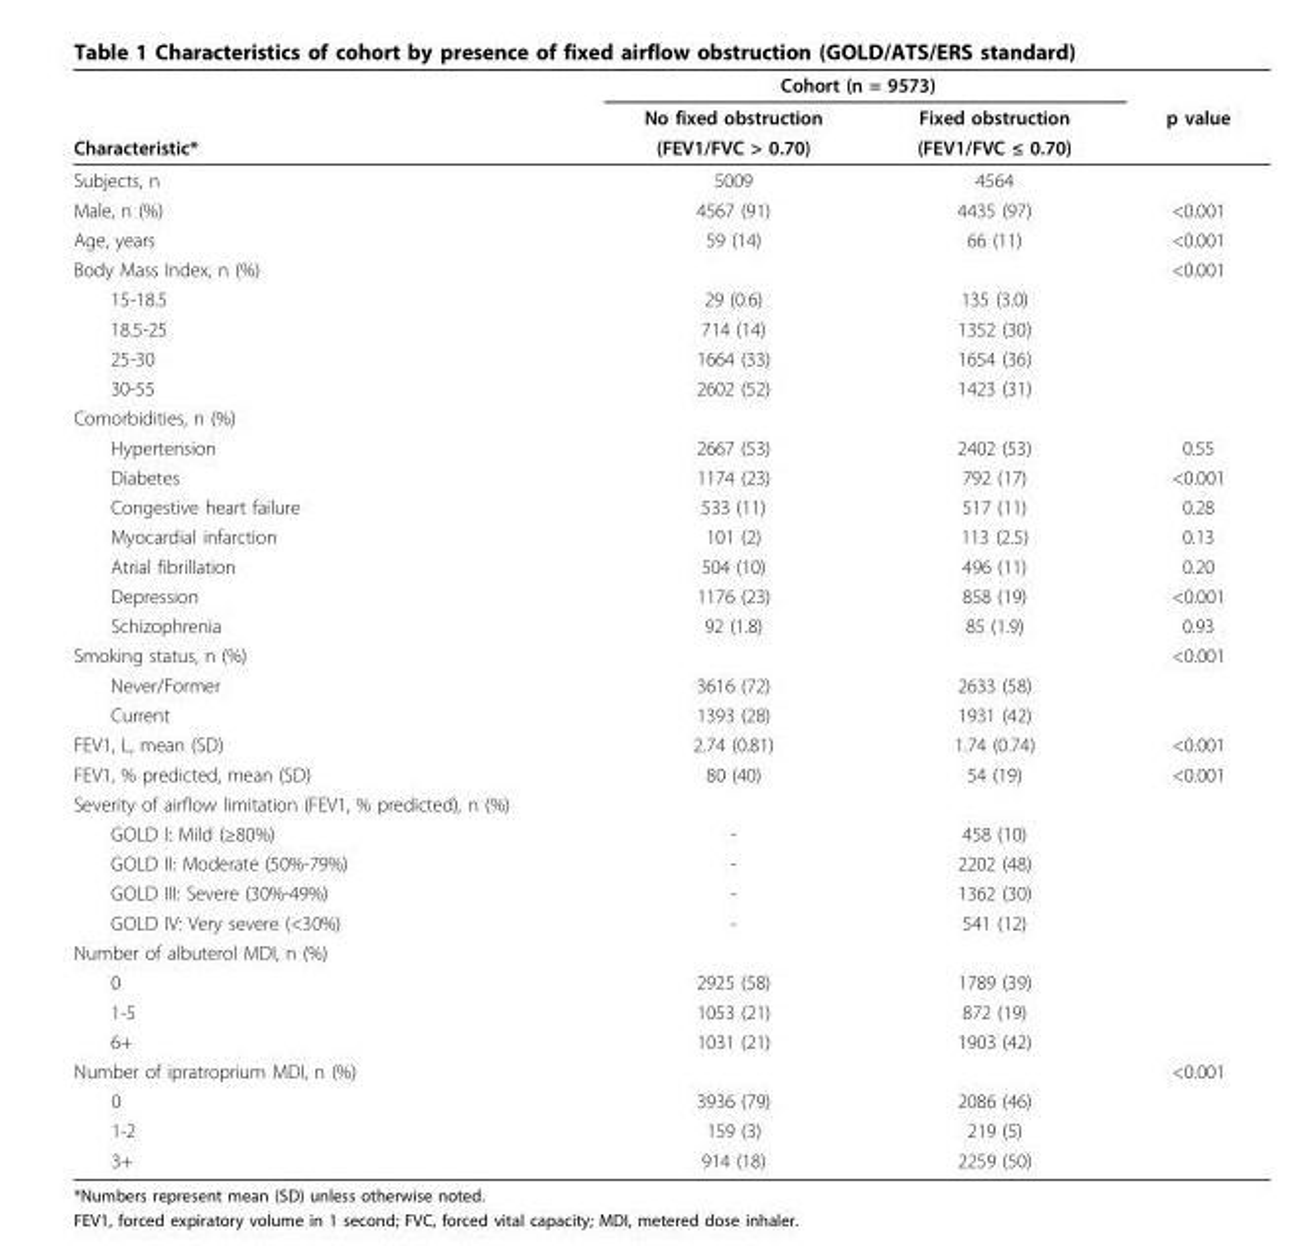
<table><thead><tr><td rowspan="3">Characteristic*</td><td colspan="2">Cohort (n = 9573)</td><td rowspan="3">p value</td></tr><tr><td rowspan="2">No fixed obstruction (FEV1/FVC &gt; 0.70)</td><td rowspan="2">Fixed obstruction (FEV1/FVC ≤ 0.70)</td></tr><tr></tr></thead><tbody><tr><td>Subjects, n</td><td>5009</td><td>4564</td><td></td></tr><tr><td>Male, n (%)</td><td>4567 (91)</td><td>4435 (97)</td><td>&lt;0.001</td></tr><tr><td>Age, years</td><td>59 (14)</td><td>66 (11)</td><td>&lt;0.001</td></tr><tr><td>Body Mass Index, n (%)</td><td></td><td></td><td>&lt;0.001</td></tr><tr><td>15-18.5</td><td>29 (0.6)</td><td>135 (3.0)</td><td></td></tr><tr><td>18.5-25</td><td>714 (14)</td><td>1352 (30)</td><td></td></tr><tr><td>25-30</td><td>1664 (33)</td><td>1654 (36)</td><td></td></tr><tr><td>30-55</td><td>2602 (52)</td><td>1423 (31)</td><td></td></tr><tr><td colspan="4">Comorbidities, n (%)</td></tr><tr><td>Hypertension</td><td>2667 (53)</td><td>2402 (53)</td><td>0.55</td></tr><tr><td>Diabetes</td><td>1174 (23)</td><td>792 (17)</td><td>&lt;0.001</td></tr><tr><td>Congestive heart failure</td><td>533 (11)</td><td>517 (11)</td><td>0.28</td></tr><tr><td>Myocardial infarction</td><td>101 (2)</td><td>113 (2.5)</td><td>0.13</td></tr><tr><td>Atrial fibrillation</td><td>504 (10)</td><td>496 (11)</td><td>0.20</td></tr><tr><td>Depression</td><td>1176 (23)</td><td>858 (19)</td><td>&lt;0.001</td></tr><tr><td>Schizophrenia</td><td>92 (1.8)</td><td>85 (1.9)</td><td>0.93</td></tr><tr><td>Smoking status, n (%)</td><td></td><td></td><td>&lt;0.001</td></tr><tr><td>Never/Former</td><td>3616 (72)</td><td>2633 (58)</td><td></td></tr><tr><td>Current</td><td>1393 (28)</td><td>1931 (42)</td><td></td></tr><tr><td>FEV1, L, mean (SD)</td><td>2.74 (0.81)</td><td>1.74 (0.74)</td><td>&lt;0.001</td></tr><tr><td>FEV1, % predicted, mean (SD)</td><td>80 (40)</td><td>54 (19)</td><td>&lt;0.001</td></tr><tr><td colspan="4">Severity of airflow limitation (FEV1, % predicted), n (%)</td></tr><tr><td>GOLD I: Mild (≥80%)</td><td>-</td><td>458 (10)</td><td></td></tr><tr><td>GOLD II: Moderate (50%-79%)</td><td>-</td><td>2202 (48)</td><td></td></tr><tr><td>GOLD III: Severe (30%-49%)</td><td>-</td><td>1362 (30)</td><td></td></tr><tr><td>GOLD IV: Very severe (&lt;30%)</td><td>-</td><td>541 (12)</td><td></td></tr><tr><td colspan="4">Number of albuterol MDI, n (%)</td></tr><tr><td>0</td><td>2925 (58)</td><td>1789 (39)</td><td></td></tr><tr><td>1-5</td><td>1053 (21)</td><td>872 (19)</td><td></td></tr><tr><td>6+</td><td>1031 (21)</td><td>1903 (42)</td><td></td></tr><tr><td>Number of ipratroprium MDI, n (%)</td><td></td><td></td><td>&lt;0.001</td></tr><tr><td>0</td><td>3936 (79)</td><td>2086 (46)</td><td></td></tr><tr><td>1-2</td><td>159 (3)</td><td>219 (5)</td><td></td></tr><tr><td>3+</td><td>914 (18)</td><td>2259 (50)</td><td></td></tr></tbody></table>